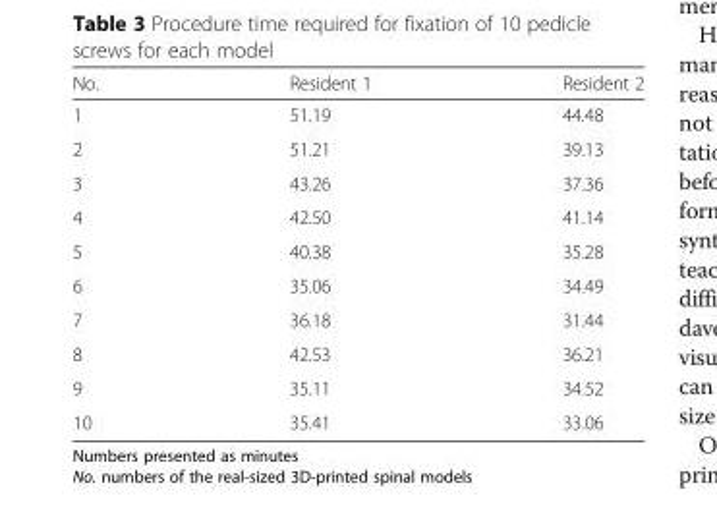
<table><thead><tr><td>No.</td><td>Resident 1</td><td>Resident 2</td></tr></thead><tbody><tr><td>1</td><td>51.19</td><td>44.48</td></tr><tr><td>2</td><td>51.21</td><td>39.13</td></tr><tr><td>3</td><td>43.26</td><td>37.36</td></tr><tr><td>4</td><td>42.50</td><td>41.14</td></tr><tr><td>5</td><td>40.38</td><td>35.28</td></tr><tr><td>6</td><td>35.06</td><td>34.49</td></tr><tr><td>7</td><td>36.18</td><td>31.44</td></tr><tr><td>8</td><td>42.53</td><td>36.21</td></tr><tr><td>9</td><td>35.11</td><td>34.52</td></tr><tr><td>10</td><td>35.41</td><td>33.06</td></tr></tbody></table>